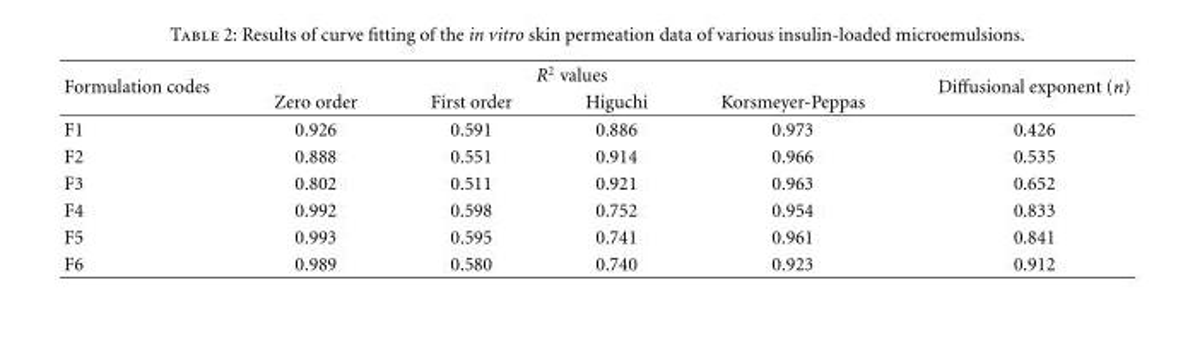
<table><thead><tr><td rowspan="2">Formulation codes</td><td colspan="4">R<sup>2</sup> values</td><td rowspan="2">Diffusional exponent (n)</td></tr><tr><td>Zero order</td><td>First order</td><td>Higuchi</td><td>Korsmeyer-Peppas</td></tr></thead><tbody><tr><td>F1</td><td>0.926</td><td>0.591</td><td>0.886</td><td>0.973</td><td>0.426</td></tr><tr><td>F2</td><td>0.888</td><td>0.551</td><td>0.914</td><td>0.966</td><td>0.535</td></tr><tr><td>F3</td><td>0.802</td><td>0.511</td><td>0.921</td><td>0.963</td><td>0.652</td></tr><tr><td>F4</td><td>0.992</td><td>0.598</td><td>0.752</td><td>0.954</td><td>0.833</td></tr><tr><td>F5</td><td>0.993</td><td>0.595</td><td>0.741</td><td>0.961</td><td>0.841</td></tr><tr><td>F6</td><td>0.989</td><td>0.580</td><td>0.740</td><td>0.923</td><td>0.912</td></tr></tbody></table>